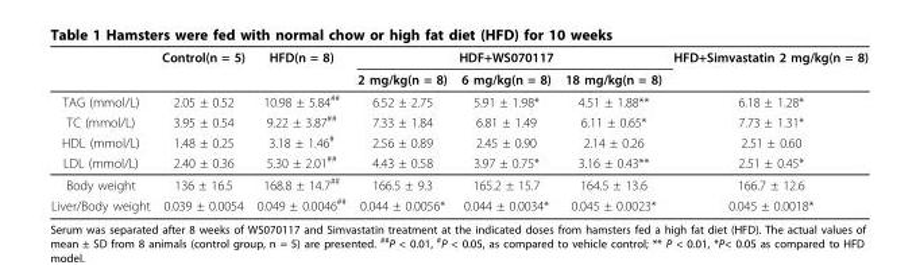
<table><thead><tr><td rowspan="2"></td><td rowspan="2">Control(n = 5)</td><td rowspan="2">HFD(n = 8)</td><td rowspan="2">2 mg/kg(n = 8)</td><td rowspan="2">HDF+WS070117 6 mg/kg(n = 8)</td><td rowspan="2">18 mg/kg(n = 8)</td><td rowspan="2">HFD+Simvastatin 2 mg/kg(n = 8)</td></tr><tr></tr></thead><tbody><tr><td>TAG (mmol/L)</td><td>2.05 ± 0.52</td><td>10.98 ± 5.84<sup>##</sup></td><td>6.52 ± 2.75</td><td>5.91 ± 1.98*</td><td>4.51 ± 1.88**</td><td>6.18 ± 1.28*</td></tr><tr><td>TC (mmol/L)</td><td>3.95 ± 0.54</td><td>9.22 ± 3.87<sup>##</sup></td><td>7.33 ± 1.84</td><td>6.81 ± 1.49</td><td>6.11 ± 0.65*</td><td>7.73 ± 1.31*</td></tr><tr><td>HDL (mmol/L)</td><td>1.48 ± 0.25</td><td>3.18 ± 1.46<sup>#</sup></td><td>2.56 ± 0.89</td><td>2.45 ± 0.90</td><td>2.14 ± 0.26</td><td>2.51 ± 0.60</td></tr><tr><td>LDL (mmol/L)</td><td>2.40 ± 0.36</td><td>5.30 ± 2.01<sup>##</sup></td><td>4.43 ± 0.58</td><td>3.97 ± 0.75*</td><td>3.16 ± 0.43**</td><td>2.51 ± 0.45*</td></tr><tr><td>Body weight</td><td>136 ± 16.5</td><td>168.8 ± 14.7<sup>##</sup></td><td>166.5 ± 9.3</td><td>165.2 ± 15.7</td><td>164.5 ± 13.6</td><td>166.7 ± 12.6</td></tr><tr><td>Liver/Body weight</td><td>0.039 ± 0.0054</td><td>0.049 ± 0.0046<sup>##</sup></td><td>0.044 ± 0.0056*</td><td>0.044 ± 0.0034*</td><td>0.045 ± 0.0023*</td><td>0.045 ± 0.0018*</td></tr></tbody></table>